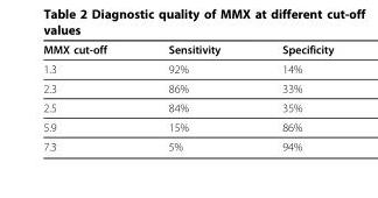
<table><thead><tr><td>MMX cut-off</td><td>Sensitivity</td><td>Specificity</td></tr></thead><tbody><tr><td>1.3</td><td>92%</td><td>14%</td></tr><tr><td>2.3</td><td>86%</td><td>33%</td></tr><tr><td>2.5</td><td>84%</td><td>35%</td></tr><tr><td>5.9</td><td>15%</td><td>86%</td></tr><tr><td>7.3</td><td>5%</td><td>94%</td></tr></tbody></table>